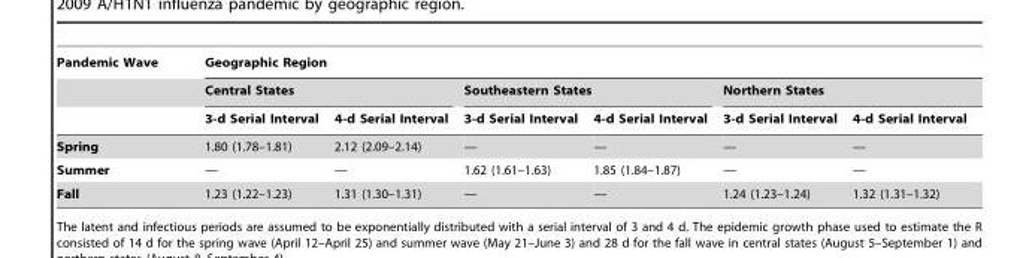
<table><thead><tr><td rowspan="3">Pandemic Wave</td><td colspan="6">Geographic Region</td></tr><tr><td colspan="2">Central States</td><td colspan="2">Southeastern States</td><td colspan="2">Northern States</td></tr><tr><td>3-d Serial Interval</td><td>4-d Serial Interval</td><td>3-d Serial Interval</td><td>4-d Serial Interval</td><td>3-d Serial Interval</td><td>4-d Serial Interval</td></tr></thead><tbody><tr><td>Spring</td><td>1.80 (1.78–1.81)</td><td>2.12 (2.09–2.14)</td><td>—</td><td>—</td><td>—</td><td>—</td></tr><tr><td>Summer</td><td>—</td><td>—</td><td>1.62 (1.61–1.63)</td><td>1.85 (1.84–1.87)</td><td>—</td><td>—</td></tr><tr><td>Fall</td><td>1.23 (1.22–1.23)</td><td>1.31 (1.30–1.31)</td><td>—</td><td>—</td><td>1.24 (1.23–1.24)</td><td>1.32 (1.31–1.32)</td></tr></tbody></table>